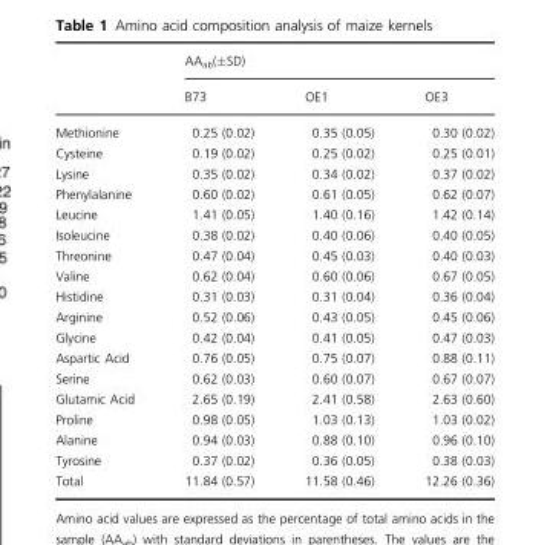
<table><thead><tr><td rowspan="2"></td><td colspan="3">AA<sub>ab</sub>(±SD)</td></tr><tr><td>B73</td><td>OE1</td><td>OE3</td></tr></thead><tbody><tr><td>Methionine</td><td>0.25 (0.02)</td><td>0.35 (0.05)</td><td>0.30 (0.02)</td></tr><tr><td>Cysteine</td><td>0.19 (0.02)</td><td>0.25 (0.02)</td><td>0.25 (0.01)</td></tr><tr><td>Lysine</td><td>0.35 (0.02)</td><td>0.34 (0.02)</td><td>0.37 (0.02)</td></tr><tr><td>Phenylalanine</td><td>0.60 (0.02)</td><td>0.61 (0.05)</td><td>0.62 (0.07)</td></tr><tr><td>Leucine</td><td>1.41 (0.05)</td><td>1.40 (0.16)</td><td>1.42 (0.14)</td></tr><tr><td>Isoleucine</td><td>0.38 (0.02)</td><td>0.40 (0.06)</td><td>0.40 (0.05)</td></tr><tr><td>Threonine</td><td>0.47 (0.04)</td><td>0.45 (0.03)</td><td>0.40 (0.03)</td></tr><tr><td>Valine</td><td>0.62 (0.04)</td><td>0.60 (0.06)</td><td>0.67 (0.05)</td></tr><tr><td>Histidine</td><td>0.31 (0.03)</td><td>0.31 (0.04)</td><td>0.36 (0.04)</td></tr><tr><td>Arginine</td><td>0.52 (0.06)</td><td>0.43 (0.05)</td><td>0.45 (0.06)</td></tr><tr><td>Glycine</td><td>0.42 (0.04)</td><td>0.41 (0.05)</td><td>0.47 (0.03)</td></tr><tr><td>Aspartic Acid</td><td>0.76 (0.05)</td><td>0.75 (0.07)</td><td>0.88 (0.11)</td></tr><tr><td>Serine</td><td>0.62 (0.03)</td><td>0.60 (0.07)</td><td>0.67 (0.07)</td></tr><tr><td>Glutamic Acid</td><td>2.65 (0.19)</td><td>2.41 (0.58)</td><td>2.63 (0.60)</td></tr><tr><td>Proline</td><td>0.98 (0.05)</td><td>1.03 (0.13)</td><td>1.03 (0.02)</td></tr><tr><td>Alanine</td><td>0.94 (0.03)</td><td>0.88 (0.10)</td><td>0.96 (0.10)</td></tr><tr><td>Tyrosine</td><td>0.37 (0.02)</td><td>0.36 (0.05)</td><td>0.38 (0.03)</td></tr><tr><td>Total</td><td>11.84 (0.57)</td><td>11.58 (0.46)</td><td>12.26 (0.36)</td></tr></tbody></table>